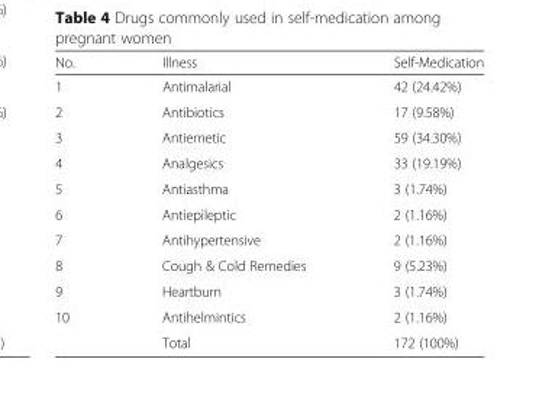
<table><thead><tr><td>No.</td><td>Illness</td><td>Self-Medication</td></tr></thead><tbody><tr><td>1</td><td>Antimalarial</td><td>42 (24.42%)</td></tr><tr><td>2</td><td>Antibiotics</td><td>17 (9.58%)</td></tr><tr><td>3</td><td>Antiemetic</td><td>59 (34.30%)</td></tr><tr><td>4</td><td>Analgesics</td><td>33 (19.19%)</td></tr><tr><td>5</td><td>Antiasthma</td><td>3 (1.74%)</td></tr><tr><td>6</td><td>Antiepileptic</td><td>2 (1.16%)</td></tr><tr><td>7</td><td>Antihypertensive</td><td>2 (1.16%)</td></tr><tr><td>8</td><td>Cough &amp; Cold Remedies</td><td>9 (5.23%)</td></tr><tr><td>9</td><td>Heartburn</td><td>3 (1.74%)</td></tr><tr><td rowspan="2">10</td><td>Antihelmintics</td><td>2 (1.16%)</td></tr><tr><td>Total</td><td>172 (100%)</td></tr></tbody></table>